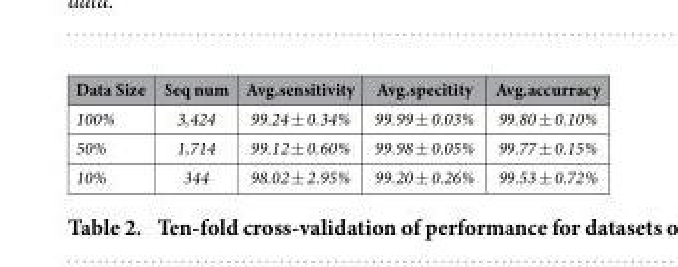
<table><thead><tr><td>Data Size</td><td>Seq num</td><td>Avg.sensitivity</td><td>Avg.specitity</td><td>Avg.accurracy</td></tr></thead><tbody><tr><td>100%</td><td>3,424</td><td>99.24 ± 0.34%</td><td>99.99 ± 0.03%</td><td>99.80 ± 0.10%</td></tr><tr><td>50%</td><td>1,714</td><td>99.12 ± 0.60%</td><td>99.98 ± 0.05%</td><td>99.77 ± 0.15%</td></tr><tr><td>10%</td><td>344</td><td>98.02 ± 2.95%</td><td>99.20 ± 0.26%</td><td>99.53 ± 0.72%</td></tr></tbody></table>